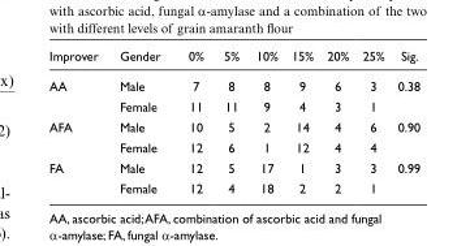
<table><thead><tr><td>Improver</td><td>Gender</td><td>0%</td><td>5%</td><td>10%</td><td>15%</td><td>20%</td><td>25%</td><td>Sig.</td></tr></thead><tbody><tr><td rowspan="2">AA</td><td>Male</td><td>7</td><td>8</td><td>8</td><td>9</td><td>6</td><td>3</td><td>0.38</td></tr><tr><td>Female</td><td>11</td><td>11</td><td>9</td><td>4</td><td>3</td><td>1</td><td></td></tr><tr><td rowspan="2">AFA</td><td>Male</td><td>10</td><td>5</td><td>2</td><td>14</td><td>4</td><td>6</td><td>0.90</td></tr><tr><td>Female</td><td>12</td><td>6</td><td>1</td><td>12</td><td>4</td><td>4</td><td></td></tr><tr><td rowspan="2">FA</td><td>Male</td><td>12</td><td>5</td><td>17</td><td>1</td><td>3</td><td>3</td><td>0.99</td></tr><tr><td>Female</td><td>12</td><td>4</td><td>18</td><td>2</td><td>2</td><td>1</td><td></td></tr></tbody></table>